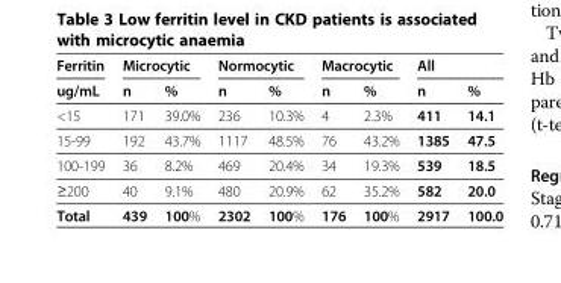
<table><thead><tr><td rowspan="2">Ferritin ug/mL</td><td colspan="2">Microcytic</td><td colspan="2">Normocytic</td><td colspan="2">Macrocytic</td><td colspan="2">All</td></tr><tr><td>n</td><td>%</td><td>n</td><td>%</td><td>n</td><td>%</td><td>n</td><td>%</td></tr></thead><tbody><tr><td>&lt;15</td><td>171</td><td>39.0%</td><td>236</td><td>10.3%</td><td>4</td><td>2.3%</td><td>411</td><td>14.1</td></tr><tr><td>15-99</td><td>192</td><td>43.7%</td><td>1117</td><td>48.5%</td><td>76</td><td>43.2%</td><td>1385</td><td>47.5</td></tr><tr><td>100-199</td><td>36</td><td>8.2%</td><td>469</td><td>20.4%</td><td>34</td><td>19.3%</td><td>539</td><td>18.5</td></tr><tr><td>≥200</td><td>40</td><td>9.1%</td><td>480</td><td>20.9%</td><td>62</td><td>35.2%</td><td>582</td><td>20.0</td></tr><tr><td>Total</td><td>439</td><td>100%</td><td>2302</td><td>100%</td><td>176</td><td>100%</td><td>2917</td><td>100.0</td></tr></tbody></table>